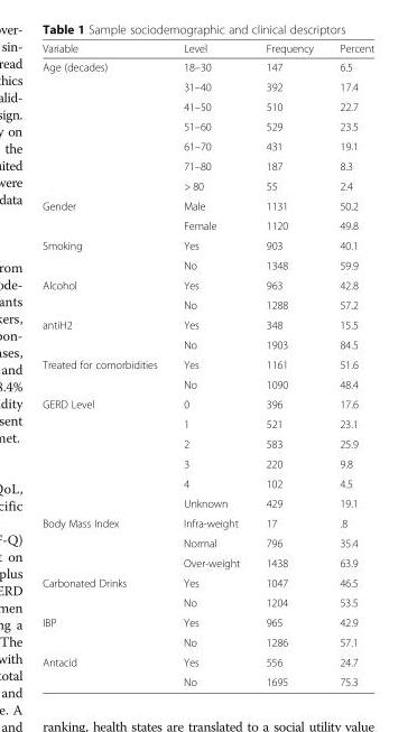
<table><thead><tr><td>Variable</td><td>Level</td><td>Frequency</td><td>Percent</td></tr></thead><tbody><tr><td rowspan="7">Age (decades)</td><td>18–30</td><td>147</td><td>6.5</td></tr><tr><td>31–40</td><td>392</td><td>17.4</td></tr><tr><td>41–50</td><td>510</td><td>22.7</td></tr><tr><td>51–60</td><td>529</td><td>23.5</td></tr><tr><td>61–70</td><td>431</td><td>19.1</td></tr><tr><td>71–80</td><td>187</td><td>8.3</td></tr><tr><td>&gt; 80</td><td>55</td><td>2.4</td></tr><tr><td rowspan="2">Gender</td><td>Male</td><td>1131</td><td>50.2</td></tr><tr><td>Female</td><td>1120</td><td>49.8</td></tr><tr><td rowspan="2">Smoking</td><td>Yes</td><td>903</td><td>40.1</td></tr><tr><td>No</td><td>1348</td><td>59.9</td></tr><tr><td rowspan="2">Alcohol</td><td>Yes</td><td>963</td><td>42.8</td></tr><tr><td>No</td><td>1288</td><td>57.2</td></tr><tr><td rowspan="2">antiH2</td><td>Yes</td><td>348</td><td>15.5</td></tr><tr><td>No</td><td>1903</td><td>84.5</td></tr><tr><td rowspan="2">Treated for comorbidities</td><td>Yes</td><td>1161</td><td>51.6</td></tr><tr><td>No</td><td>1090</td><td>48.4</td></tr><tr><td rowspan="6">GERD Level</td><td>0</td><td>396</td><td>17.6</td></tr><tr><td>1</td><td>521</td><td>23.1</td></tr><tr><td>2</td><td>583</td><td>25.9</td></tr><tr><td>3</td><td>220</td><td>9.8</td></tr><tr><td>4</td><td>102</td><td>4.5</td></tr><tr><td>Unknown</td><td>429</td><td>19.1</td></tr><tr><td rowspan="3">Body Mass Index</td><td>Infra-weight</td><td>17</td><td>.8</td></tr><tr><td>Normal</td><td>796</td><td>35.4</td></tr><tr><td>Over-weight</td><td>1438</td><td>63.9</td></tr><tr><td rowspan="2">Carbonated Drinks</td><td>Yes</td><td>1047</td><td>46.5</td></tr><tr><td>No</td><td>1204</td><td>53.5</td></tr><tr><td rowspan="2">IBP</td><td>Yes</td><td>965</td><td>42.9</td></tr><tr><td>No</td><td>1286</td><td>57.1</td></tr><tr><td rowspan="2">Antacid</td><td>Yes</td><td>556</td><td>24.7</td></tr><tr><td>No</td><td>1695</td><td>75.3</td></tr></tbody></table>